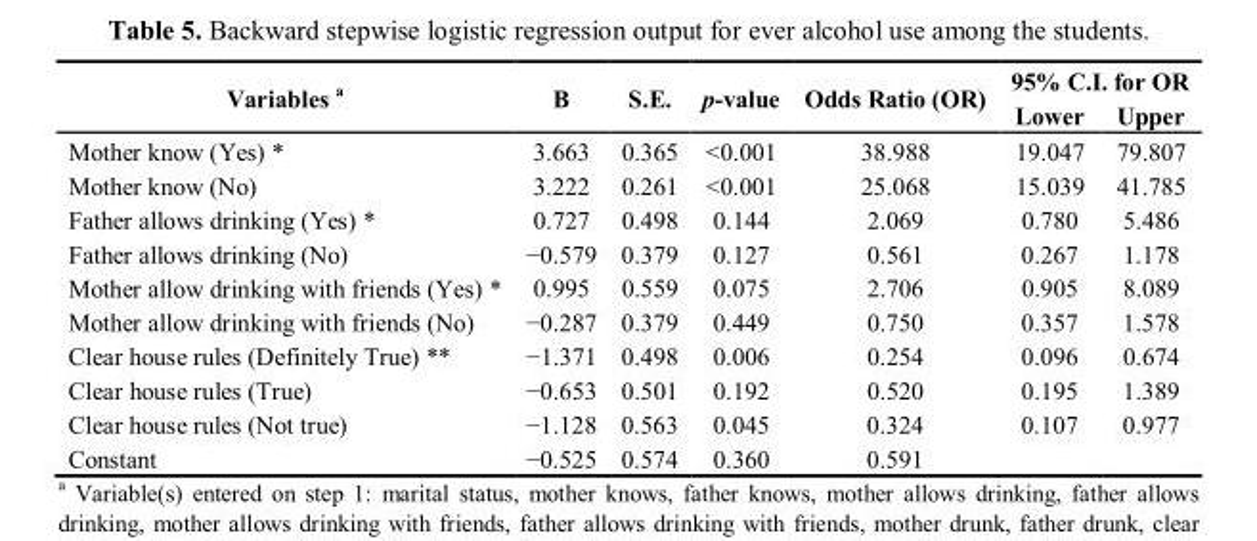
<table><thead><tr><td rowspan="2">Variables <sup>a</sup></td><td rowspan="2">B</td><td rowspan="2">S.E.</td><td rowspan="2">p-value</td><td rowspan="2">Odds Ratio (OR)</td><td colspan="2">95% C.I. for OR</td></tr><tr><td>Lower</td><td>Upper</td></tr></thead><tbody><tr><td>Mother know (Yes) *</td><td>3.663</td><td>0.365</td><td>&lt;0.001</td><td>38.988</td><td>19.047</td><td>79.807</td></tr><tr><td>Mother know (No)</td><td>3.222</td><td>0.261</td><td>&lt;0.001</td><td>25.068</td><td>15.039</td><td>41.785</td></tr><tr><td>Father allows drinking (Yes) *</td><td>0.727</td><td>0.498</td><td>0.144</td><td>2.069</td><td>0.780</td><td>5.486</td></tr><tr><td>Father allows drinking (No)</td><td>−0.579</td><td>0.379</td><td>0.127</td><td>0.561</td><td>0.267</td><td>1.178</td></tr><tr><td>Mother allow drinking with friends (Yes) *</td><td>0.995</td><td>0.559</td><td>0.075</td><td>2.706</td><td>0.905</td><td>8.089</td></tr><tr><td>Mother allow drinking with friends (No)</td><td>−0.287</td><td>0.379</td><td>0.449</td><td>0.750</td><td>0.357</td><td>1.578</td></tr><tr><td>Clear house rules (Definitely True) **</td><td>−1.371</td><td>0.498</td><td>0.006</td><td>0.254</td><td>0.096</td><td>0.674</td></tr><tr><td>Clear house rules (True)</td><td>−0.653</td><td>0.501</td><td>0.192</td><td>0.520</td><td>0.195</td><td>1.389</td></tr><tr><td>Clear house rules (Not true)</td><td>−1.128</td><td>0.563</td><td>0.045</td><td>0.324</td><td>0.107</td><td>0.977</td></tr><tr><td>Constant</td><td>−0.525</td><td>0.574</td><td>0.360</td><td>0.591</td><td></td><td></td></tr></tbody></table>